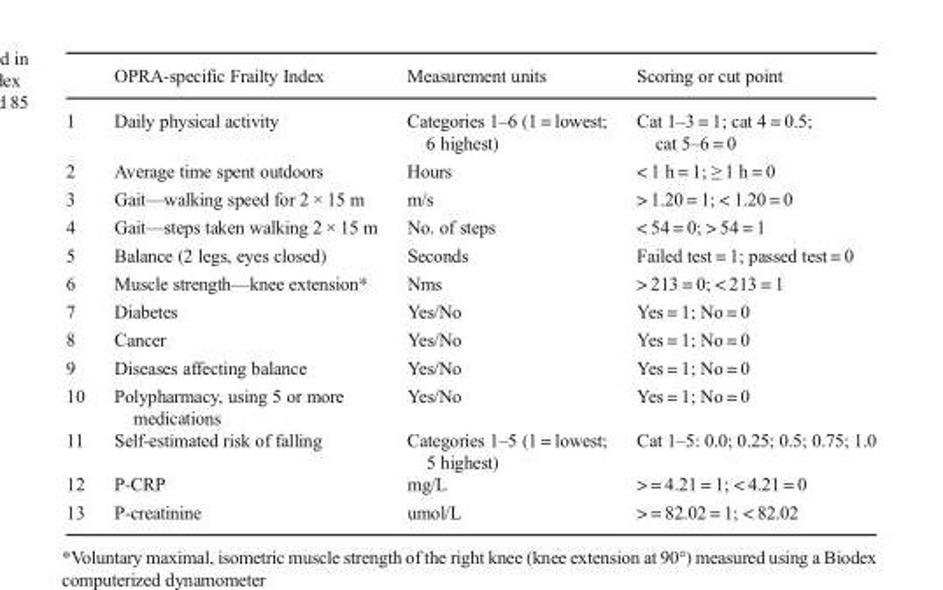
<table><thead><tr><td></td><td>OPRA-specific Frailty Index</td><td>Measurement units</td><td>Scoring or cut point</td></tr></thead><tbody><tr><td>1</td><td>Daily physical activity</td><td>Categories 1–6 (1 = lowest; 6 highest)</td><td>Cat 1–3 = 1; cat 4 = 0.5; cat 5–6 = 0</td></tr><tr><td>2</td><td>Average time spent outdoors</td><td>Hours</td><td>&lt; 1 h = 1; ≥ 1 h = 0</td></tr><tr><td>3</td><td>Gait—walking speed for 2 × 15 m</td><td>m/s</td><td>&gt; 1.20 = 1; &lt; 1.20 = 0</td></tr><tr><td>4</td><td>Gait—steps taken walking 2 × 15 m</td><td>No. of steps</td><td>&lt; 54 = 0; &gt; 54 = 1</td></tr><tr><td>5</td><td>Balance (2 legs, eyes closed)</td><td>Seconds</td><td>Failed test = 1; passed test = 0</td></tr><tr><td>6</td><td>Muscle strength—knee extension*</td><td>Nms</td><td>&gt; 213 = 0; &lt; 213 = 1</td></tr><tr><td>7</td><td>Diabetes</td><td>Yes/No</td><td>Yes = 1; No = 0</td></tr><tr><td>8</td><td>Cancer</td><td>Yes/No</td><td>Yes = 1; No = 0</td></tr><tr><td>9</td><td>Diseases affecting balance</td><td>Yes/No</td><td>Yes = 1; No = 0</td></tr><tr><td>10</td><td>Polypharmacy, using 5 or more medications</td><td>Yes/No</td><td>Yes = 1; No = 0</td></tr><tr><td>11</td><td>Self-estimated risk of falling</td><td>Categories 1–5 (1 = lowest; 5 highest)</td><td>Cat 1–5: 0.0; 0.25; 0.5; 0.75; 1.0</td></tr><tr><td>12</td><td>P-CRP</td><td>mg/L</td><td>&gt; = 4.21 = 1; &lt; 4.21 = 0</td></tr><tr><td>13</td><td>P-creatinine</td><td>umol/L</td><td>&gt; = 82.02 = 1; &lt; 82.02</td></tr></tbody></table>